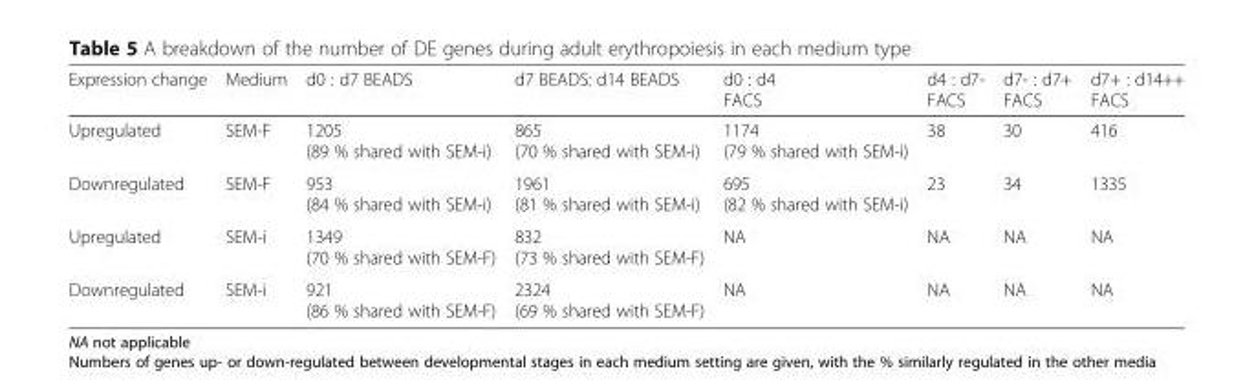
<table><thead><tr><td>Expression change</td><td>Medium</td><td>d0 : d7 BEADS</td><td>d7 BEADS: d14 BEADS</td><td>d0 : d4 FACS</td><td>d4 : d7- FACS</td><td>d7- : d7+ FACS</td><td>d7+ : d14++ FACS</td></tr></thead><tbody><tr><td>Upregulated</td><td>SEM-F</td><td>1205 (89 % shared with SEM-i)</td><td>865 (70 % shared with SEM-i)</td><td>1174 (79 % shared with SEM-i)</td><td>38</td><td>30</td><td>416</td></tr><tr><td>Downregulated</td><td>SEM-F</td><td>953 (84 % shared with SEM-i)</td><td>1961 (81 % shared with SEM-i)</td><td>695 (82 % shared with SEM-i)</td><td>23</td><td>34</td><td>1335</td></tr><tr><td>Upregulated</td><td>SEM-i</td><td>1349 (70 % shared with SEM-F)</td><td>832 (73 % shared with SEM-F)</td><td>NA</td><td>NA</td><td>NA</td><td>NA</td></tr><tr><td>Downregulated</td><td>SEM-i</td><td>921 (86 % shared with SEM-F)</td><td>2324 (69 % shared with SEM-F)</td><td>NA</td><td>NA</td><td>NA</td><td>NA</td></tr></tbody></table>